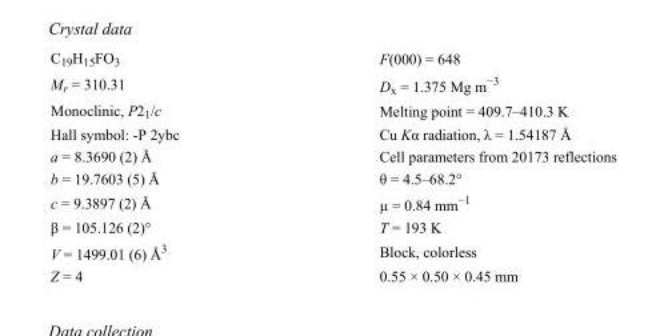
<table><tbody><tr><td>C<sub>19</sub>H<sub>15</sub>FO<sub>3</sub></td><td>F(000) = 648</td></tr><tr><td>M<sub>r</sub> = 310.31</td><td>D<sub>x</sub> = 1.375 Mg m<sup>−3</sup></td></tr><tr><td>Monoclinic, P2<sub>1</sub>/c</td><td>Melting point = 409.7–410.3 K</td></tr><tr><td>Hall symbol: -P 2ybc</td><td>Cu Kα radiation, λ = 1.54187 Å</td></tr><tr><td>a = 8.3690 (2) Å</td><td>Cell parameters from 20173 reflections</td></tr><tr><td>b = 19.7603 (5) Å</td><td>θ = 4.5–68.2°</td></tr><tr><td>c = 9.3897 (2) Å</td><td>µ = 0.84 mm<sup>−1</sup></td></tr><tr><td>β = 105.126 (2)°</td><td>T = 193 K</td></tr><tr><td>V = 1499.01 (6) Å<sup>3</sup></td><td>Block, colorless</td></tr><tr><td>Z = 4</td><td>0.55 × 0.50 × 0.45 mm</td></tr></tbody></table>